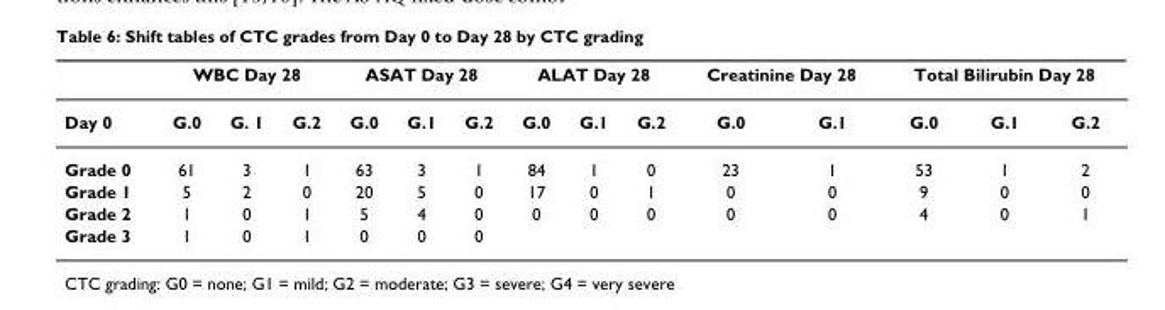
<table><thead><tr><td rowspan="2">Day 0</td><td colspan="3">WBC Day 28</td><td colspan="3">ASAT Day 28</td><td colspan="3">ALAT Day 28</td><td colspan="2">Creatinine Day 28</td><td colspan="3">Total Bilirubin Day 28</td></tr><tr><td>G.0</td><td>G. 1</td><td>G.2</td><td>G.0</td><td>G.1</td><td>G.2</td><td>G.0</td><td>G.1</td><td>G.2</td><td>G.0</td><td>G.1</td><td>G.0</td><td>G.1</td><td>G.2</td></tr></thead><tbody><tr><td>Grade 0</td><td>61</td><td>3</td><td>1</td><td>63</td><td>3</td><td>1</td><td>84</td><td>1</td><td>0</td><td>23</td><td>1</td><td>53</td><td>1</td><td>2</td></tr><tr><td>Grade 1</td><td>5</td><td>2</td><td>0</td><td>20</td><td>5</td><td>0</td><td>17</td><td>0</td><td>1</td><td>0</td><td>0</td><td>9</td><td>0</td><td>0</td></tr><tr><td>Grade 2</td><td>1</td><td>0</td><td>1</td><td>5</td><td>4</td><td>0</td><td>0</td><td>0</td><td>0</td><td>0</td><td>0</td><td>4</td><td>0</td><td>1</td></tr><tr><td>Grade 3</td><td>1</td><td>0</td><td>1</td><td>0</td><td>0</td><td>0</td><td></td><td></td><td></td><td></td><td></td><td></td><td></td><td></td></tr></tbody></table>